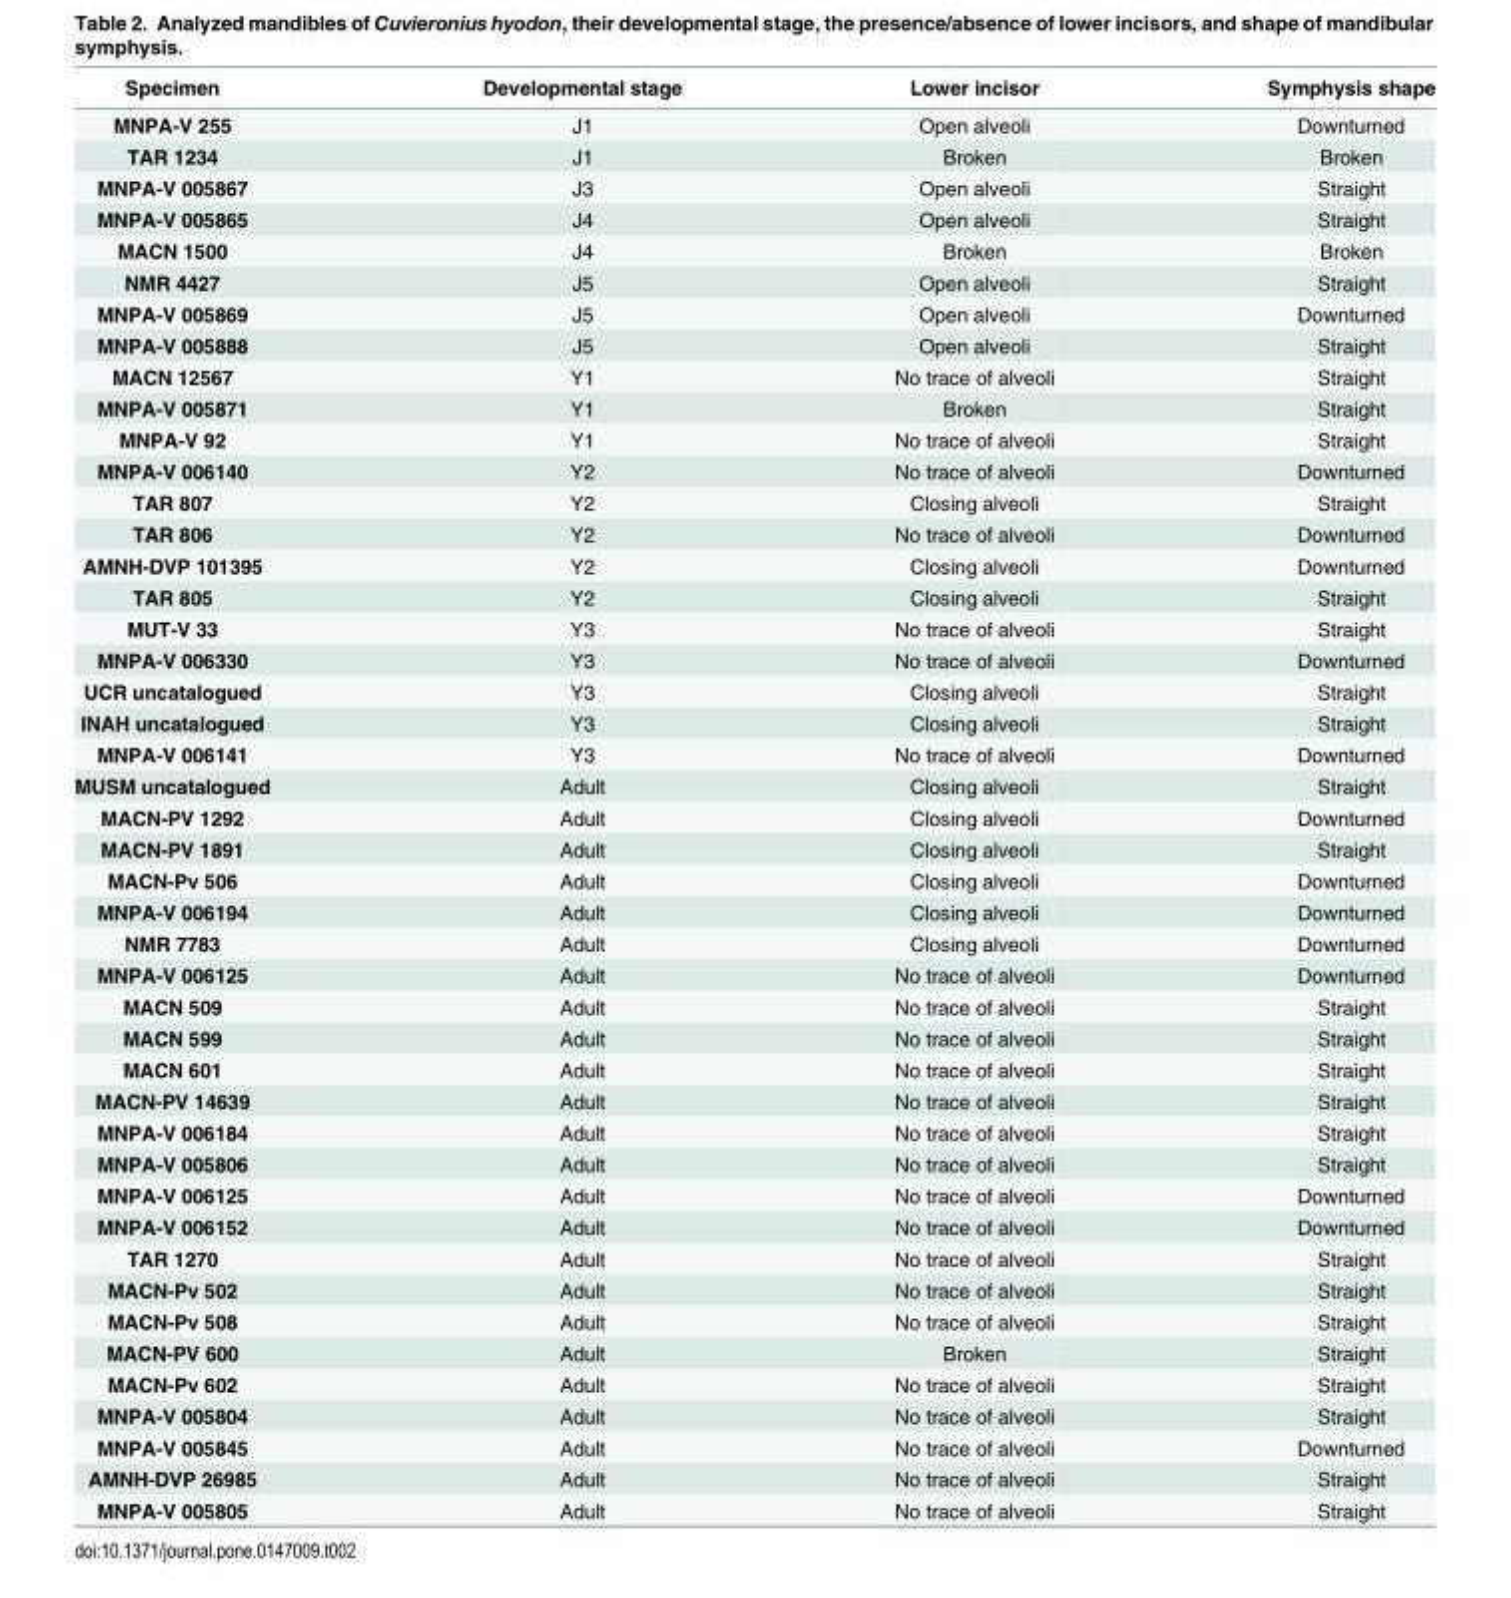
<table><thead><tr><td>Specimen</td><td>Developmental stage</td><td>Lower incisor</td><td>Symphysis shape</td></tr></thead><tbody><tr><td>MNPA-V 255</td><td>J1</td><td>Open alveoli</td><td>Downturned</td></tr><tr><td>TAR 1234</td><td>J1</td><td>Broken</td><td>Broken</td></tr><tr><td>MNPA-V 005867</td><td>J3</td><td>Open alveoli</td><td>Straight</td></tr><tr><td>MNPA-V 005865</td><td>J4</td><td>Open alveoli</td><td>Straight</td></tr><tr><td>MACN 1500</td><td>J4</td><td>Broken</td><td>Broken</td></tr><tr><td>NMR 4427</td><td>J5</td><td>Open alveoli</td><td>Straight</td></tr><tr><td>MNPA-V 005869</td><td>J5</td><td>Open alveoli</td><td>Downturned</td></tr><tr><td>MNPA-V 005888</td><td>J5</td><td>Open alveoli</td><td>Straight</td></tr><tr><td>MACN 12567</td><td>Y1</td><td>No trace of alveoli</td><td>Straight</td></tr><tr><td>MNPA-V 005871</td><td>Y1</td><td>Broken</td><td>Straight</td></tr><tr><td>MNPA-V 92</td><td>Y1</td><td>No trace of alveoli</td><td>Straight</td></tr><tr><td>MNPA-V 006140</td><td>Y2</td><td>No trace of alveoli</td><td>Downturned</td></tr><tr><td>TAR 807</td><td>Y2</td><td>Closing alveoli</td><td>Straight</td></tr><tr><td>TAR 806</td><td>Y2</td><td>No trace of alveoli</td><td>Downturned</td></tr><tr><td>AMNH-DVP 101395</td><td>Y2</td><td>Closing alveoli</td><td>Downturned</td></tr><tr><td>TAR 805</td><td>Y2</td><td>Closing alveoli</td><td>Straight</td></tr><tr><td>MUT-V 33</td><td>Y3</td><td>No trace of alveoli</td><td>Straight</td></tr><tr><td>MNPA-V 006330</td><td>Y3</td><td>No trace of alveoli</td><td>Downturned</td></tr><tr><td>UCR uncatalogued</td><td>Y3</td><td>Closing alveoli</td><td>Straight</td></tr><tr><td>INAH uncatalogued</td><td>Y3</td><td>Closing alveoli</td><td>Straight</td></tr><tr><td>MNPA-V 006141</td><td>Y3</td><td>No trace of alveoli</td><td>Downturned</td></tr><tr><td>MUSM uncatalogued</td><td>Adult</td><td>Closing alveoli</td><td>Straight</td></tr><tr><td>MACN-PV 1292</td><td>Adult</td><td>Closing alveoli</td><td>Downturned</td></tr><tr><td>MACN-PV 1891</td><td>Adult</td><td>Closing alveoli</td><td>Straight</td></tr><tr><td>MACN-Pv 506</td><td>Adult</td><td>Closing alveoli</td><td>Downturned</td></tr><tr><td>MNPA-V 006194</td><td>Adult</td><td>Closing alveoli</td><td>Downturned</td></tr><tr><td>NMR 7783</td><td>Adult</td><td>Closing alveoli</td><td>Downturned</td></tr><tr><td>MNPA-V 006125</td><td>Adult</td><td>No trace of alveoli</td><td>Downturned</td></tr><tr><td>MACN 509</td><td>Adult</td><td>No trace of alveoli</td><td>Straight</td></tr><tr><td>MACN 599</td><td>Adult</td><td>No trace of alveoli</td><td>Straight</td></tr><tr><td>MACN 601</td><td>Adult</td><td>No trace of alveoli</td><td>Straight</td></tr><tr><td>MACN-PV 14639</td><td>Adult</td><td>No trace of alveoli</td><td>Straight</td></tr><tr><td>MNPA-V 006184</td><td>Adult</td><td>No trace of alveoli</td><td>Straight</td></tr><tr><td>MNPA-V 005806</td><td>Adult</td><td>No trace of alveoli</td><td>Straight</td></tr><tr><td>MNPA-V 006125</td><td>Adult</td><td>No trace of alveoli</td><td>Downturned</td></tr><tr><td>MNPA-V 006152</td><td>Adult</td><td>No trace of alveoli</td><td>Downturned</td></tr><tr><td>TAR 1270</td><td>Adult</td><td>No trace of alveoli</td><td>Straight</td></tr><tr><td>MACN-Pv 502</td><td>Adult</td><td>No trace of alveoli</td><td>Straight</td></tr><tr><td>MACN-Pv 508</td><td>Adult</td><td>No trace of alveoli</td><td>Straight</td></tr><tr><td>MACN-PV 600</td><td>Adult</td><td>Broken</td><td>Straight</td></tr><tr><td>MACN-Pv 602</td><td>Adult</td><td>No trace of alveoli</td><td>Straight</td></tr><tr><td>MNPA-V 005804</td><td>Adult</td><td>No trace of alveoli</td><td>Straight</td></tr><tr><td>MNPA-V 005845</td><td>Adult</td><td>No trace of alveoli</td><td>Downturned</td></tr><tr><td>AMNH-DVP 26985</td><td>Adult</td><td>No trace of alveoli</td><td>Straight</td></tr><tr><td>MNPA-V 005805</td><td>Adult</td><td>No trace of alveoli</td><td>Straight</td></tr></tbody></table>